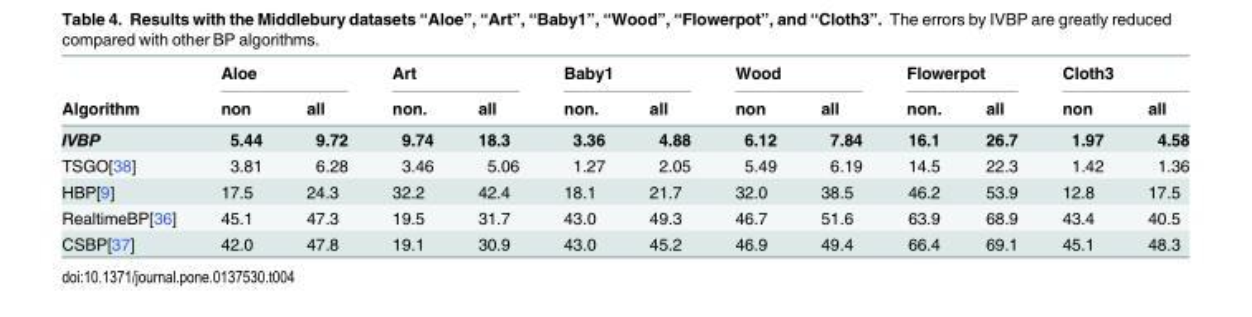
<table><thead><tr><td rowspan="2">Algorithm</td><td colspan="2">Aloe</td><td colspan="2">Art</td><td colspan="2">Baby1</td><td colspan="2">Wood</td><td colspan="2">Flowerpot</td><td colspan="2">Cloth3</td></tr><tr><td>non</td><td>all</td><td>non.</td><td>all</td><td>non.</td><td>all</td><td>non</td><td>all</td><td>non.</td><td>all</td><td>non</td><td>all</td></tr></thead><tbody><tr><td>IVBP</td><td>5.44</td><td>9.72</td><td>9.74</td><td>18.3</td><td>3.36</td><td>4.88</td><td>6.12</td><td>7.84</td><td>16.1</td><td>26.7</td><td>1.97</td><td>4.58</td></tr><tr><td>TSGO[38]</td><td>3.81</td><td>6.28</td><td>3.46</td><td>5.06</td><td>1.27</td><td>2.05</td><td>5.49</td><td>6.19</td><td>14.5</td><td>22.3</td><td>1.42</td><td>1.36</td></tr><tr><td>HBP[9]</td><td>17.5</td><td>24.3</td><td>32.2</td><td>42.4</td><td>18.1</td><td>21.7</td><td>32.0</td><td>38.5</td><td>46.2</td><td>53.9</td><td>12.8</td><td>17.5</td></tr><tr><td>RealtimeBP[36]</td><td>45.1</td><td>47.3</td><td>19.5</td><td>31.7</td><td>43.0</td><td>49.3</td><td>46.7</td><td>51.6</td><td>63.9</td><td>68.9</td><td>43.4</td><td>40.5</td></tr><tr><td>CSBP[37]</td><td>42.0</td><td>47.8</td><td>19.1</td><td>30.9</td><td>43.0</td><td>45.2</td><td>46.9</td><td>49.4</td><td>66.4</td><td>69.1</td><td>45.1</td><td>48.3</td></tr></tbody></table>